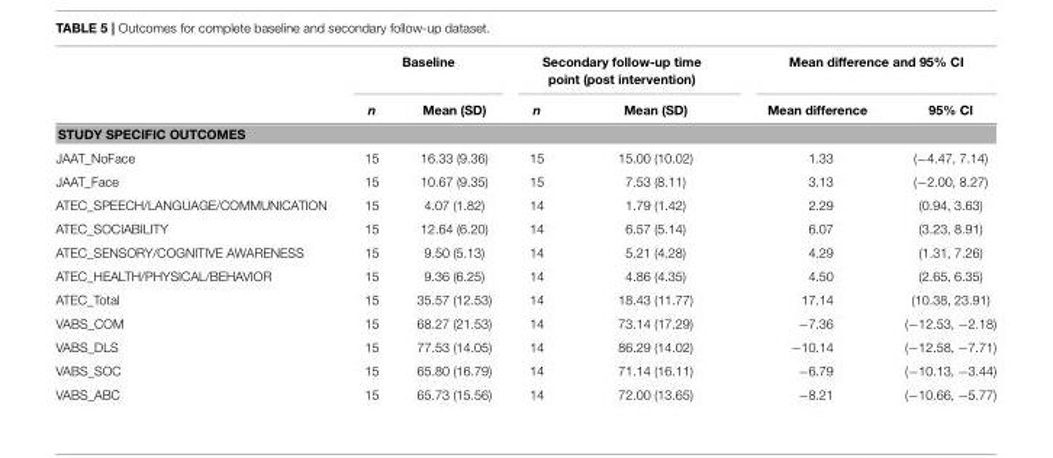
<table><thead><tr><td rowspan="2"></td><td colspan="2">Baseline</td><td colspan="2">Secondary follow-up time point (post intervention)</td><td colspan="2">Mean difference and 95% CI</td></tr><tr><td>n</td><td>Mean (SD)</td><td>n</td><td>Mean (SD)</td><td>Mean difference</td><td>95% CI</td></tr></thead><tbody><tr><td colspan="7">STUDY SPECIFIC OUTCOMES</td></tr><tr><td>JAAT_NoFace</td><td>15</td><td>16.33 (9.36)</td><td>15</td><td>15.00 (10.02)</td><td>1.33</td><td>(−4.47, 7.14)</td></tr><tr><td>JAAT_Face</td><td>15</td><td>10.67 (9.35)</td><td>15</td><td>7.53 (8.11)</td><td>3.13</td><td>(−2.00, 8.27)</td></tr><tr><td>ATEC_SPEECH/LANGUAGE/COMMUNICATION</td><td>15</td><td>4.07 (1.82)</td><td>14</td><td>1.79 (1.42)</td><td>2.29</td><td>(0.94, 3.63)</td></tr><tr><td>ATEC_SOCIABILITY</td><td>15</td><td>12.64 (6.20)</td><td>14</td><td>6.57 (5.14)</td><td>6.07</td><td>(3.23, 8.91)</td></tr><tr><td>ATEC_SENSORY/COGNITIVE AWARENESS</td><td>15</td><td>9.50 (5.13)</td><td>14</td><td>5.21 (4.28)</td><td>4.29</td><td>(1.31, 7.26)</td></tr><tr><td>ATEC_HEALTH/PHYSICAL/BEHAVIOR</td><td>15</td><td>9.36 (6.25)</td><td>14</td><td>4.86 (4.35)</td><td>4.50</td><td>(2.65, 6.35)</td></tr><tr><td>ATEC_Total</td><td>15</td><td>35.57 (12.53)</td><td>14</td><td>18.43 (11.77)</td><td>17.14</td><td>(10.38, 23.91)</td></tr><tr><td>VABS_COM</td><td>15</td><td>68.27 (21.53)</td><td>14</td><td>73.14 (17.29)</td><td>−7.36</td><td>(−12.53, −2.18)</td></tr><tr><td>VABS_DLS</td><td>15</td><td>77.53 (14.05)</td><td>14</td><td>86.29 (14.02)</td><td>−10.14</td><td>(−12.58, −7.71)</td></tr><tr><td>VABS_SOC</td><td>15</td><td>65.80 (16.79)</td><td>14</td><td>71.14 (16.11)</td><td>−6.79</td><td>(−10.13, −3.44)</td></tr><tr><td>VABS_ABC</td><td>15</td><td>65.73 (15.56)</td><td>14</td><td>72.00 (13.65)</td><td>−8.21</td><td>(−10.66, −5.77)</td></tr></tbody></table>